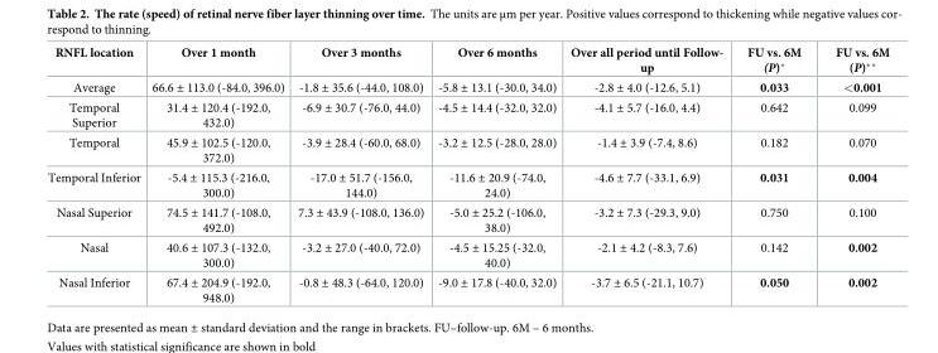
<table><thead><tr><td>RNFL location</td><td>Over 1 month</td><td>Over 3 months</td><td>Over 6 months</td><td>Over all period until Follow- up</td><td>FU vs. 6M (P)*</td><td>FU vs. 6M (P)**</td></tr></thead><tbody><tr><td>Average</td><td>66.6 ± 113.0 (-84.0, 396.0)</td><td>-1.8 ± 35.6 (-44.0, 108.0)</td><td>-5.8 ± 13.1 (-30.0, 34.0)</td><td>-2.8 ± 4.0 (-12.6, 5.1)</td><td>0.033</td><td>&lt;0.001</td></tr><tr><td>Temporal Superior</td><td>31.4 ± 120.4 (-192.0, 432.0)</td><td>-6.9 ± 30.7 (-76.0, 44.0)</td><td>-4.5 ± 14.4 (-32.0, 32.0)</td><td>-4.1 ± 5.7 (-16.0, 4.4)</td><td>0.642</td><td>0.099</td></tr><tr><td>Temporal</td><td>45.9 ± 102.5 (-120.0, 372.0)</td><td>-3.9 ± 28.4 (-60.0, 68.0)</td><td>-3.2 ± 12.5 (-28.0, 28.0)</td><td>-1.4 ± 3.9 (-7.4, 8.6)</td><td>0.182</td><td>0.070</td></tr><tr><td>Temporal Inferior</td><td>-5.4 ± 115.3 (-216.0, 300.0)</td><td>-17.0 ± 51.7 (-156.0, 144.0)</td><td>-11.6 ± 20.9 (-74.0, 24.0)</td><td>-4.6 ± 7.7 (-33.1, 6.9)</td><td>0.031</td><td>0.004</td></tr><tr><td>Nasal Superior</td><td>74.5 ± 141.7 (-108.0, 492.0)</td><td>7.3 ± 43.9 (-108.0, 136.0)</td><td>-5.0 ± 25.2 (-106.0, 38.0)</td><td>-3.2 ± 7.3 (-29.3, 9.0)</td><td>0.750</td><td>0.100</td></tr><tr><td>Nasal</td><td>40.6 ± 107.3 (-132.0, 300.0)</td><td>-3.2 ± 27.0 (-40.0, 72.0)</td><td>-4.5 ± 15.25 (-32.0, 40.0)</td><td>-2.1 ± 4.2 (-8.3, 7.6)</td><td>0.142</td><td>0.002</td></tr><tr><td>Nasal Inferior</td><td>67.4 ± 204.9 (-192.0, 948.0)</td><td>-0.8 ± 48.3 (-64.0, 120.0)</td><td>-9.0 ± 17.8 (-40.0, 32.0)</td><td>-3.7 ± 6.5 (-21.1, 10.7)</td><td>0.050</td><td>0.002</td></tr></tbody></table>